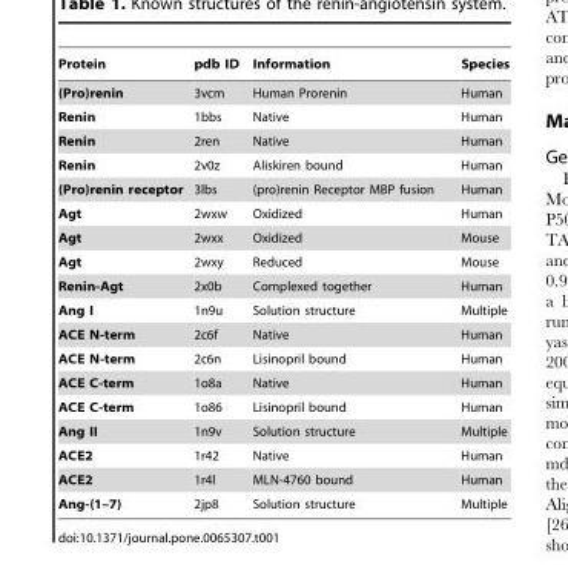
<table><thead><tr><td>Protein</td><td>pdb ID</td><td>Information</td><td>Species</td></tr></thead><tbody><tr><td>(Pro)renin</td><td>3vcm</td><td>Human Prorenin</td><td>Human</td></tr><tr><td>Renin</td><td>1bbs</td><td>Native</td><td>Human</td></tr><tr><td>Renin</td><td>2ren</td><td>Native</td><td>Human</td></tr><tr><td>Renin</td><td>2v0z</td><td>Aliskiren bound</td><td>Human</td></tr><tr><td>(Pro)renin receptor</td><td>3lbs</td><td>(pro)renin Receptor MBP fusion</td><td>Human</td></tr><tr><td>Agt</td><td>2wxw</td><td>Oxidized</td><td>Human</td></tr><tr><td>Agt</td><td>2wxx</td><td>Oxidized</td><td>Mouse</td></tr><tr><td>Agt</td><td>2wxy</td><td>Reduced</td><td>Mouse</td></tr><tr><td>Renin-Agt</td><td>2x0b</td><td>Complexed together</td><td>Human</td></tr><tr><td>Ang I</td><td>1n9u</td><td>Solution structure</td><td>Multiple</td></tr><tr><td>ACE N-term</td><td>2c6f</td><td>Native</td><td>Human</td></tr><tr><td>ACE N-term</td><td>2c6n</td><td>Lisinopril bound</td><td>Human</td></tr><tr><td>ACE C-term</td><td>1o8a</td><td>Native</td><td>Human</td></tr><tr><td>ACE C-term</td><td>1o86</td><td>Lisinopril bound</td><td>Human</td></tr><tr><td>Ang II</td><td>1n9v</td><td>Solution structure</td><td>Multiple</td></tr><tr><td>ACE2</td><td>1r42</td><td>Native</td><td>Human</td></tr><tr><td>ACE2</td><td>1r4l</td><td>MLN-4760 bound</td><td>Human</td></tr><tr><td>Ang-(1–7)</td><td>2jp8</td><td>Solution structure</td><td>Multiple</td></tr></tbody></table>